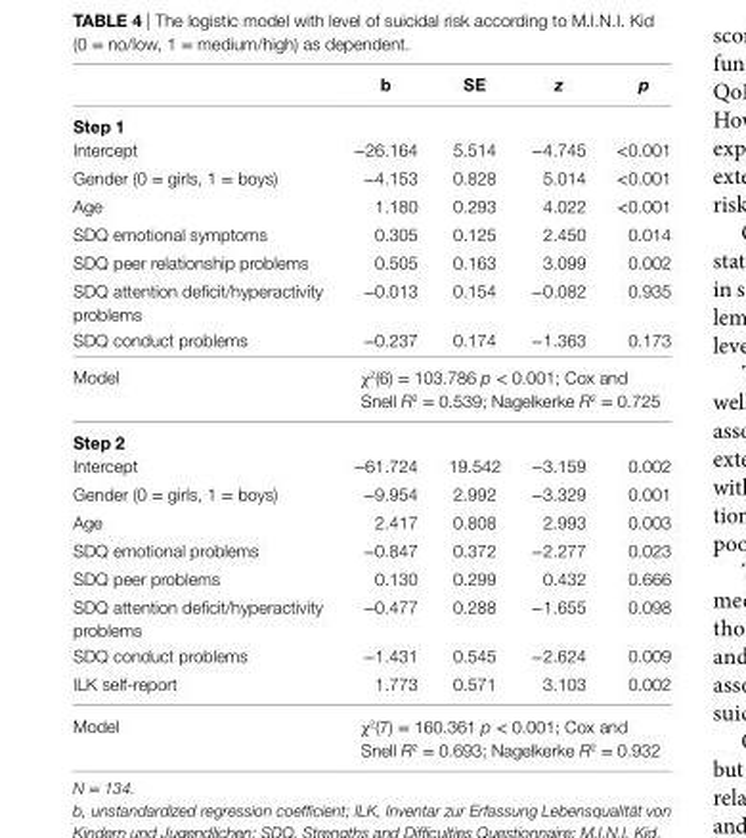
<table><thead><tr><td></td><td>b</td><td>se</td><td>z</td><td>p</td></tr></thead><tbody><tr><td colspan="5">step 1</td></tr><tr><td>Intercept</td><td>−26.164</td><td>5.514</td><td>−4.745</td><td>&lt;0.001</td></tr><tr><td>Gender (0 = girls, 1 = boys)</td><td>−4.153</td><td>0.828</td><td>5.014</td><td>&lt;0.001</td></tr><tr><td>Age</td><td>1.180</td><td>0.293</td><td>4.022</td><td>&lt;0.001</td></tr><tr><td>SDQ emotional symptoms</td><td>0.305</td><td>0.125</td><td>2.450</td><td>0.014</td></tr><tr><td>SDQ peer relationship problems</td><td>0.505</td><td>0.163</td><td>3.099</td><td>0.002</td></tr><tr><td>SDQ attention deficit/hyperactivity problems</td><td>−0.013</td><td>0.154</td><td>−0.082</td><td>0.935</td></tr><tr><td>SDQ conduct problems</td><td>−0.237</td><td>0.174</td><td>−1.363</td><td>0.173</td></tr><tr><td>Model</td><td colspan="4">χ<sup>2</sup>(6) = 103.786 p &lt; 0.001; Cox and Snell R<sup>2</sup> = 0.539; Nagelkerke R<sup>2</sup> = 0.725</td></tr><tr><td colspan="5">step 2</td></tr><tr><td>Intercept</td><td>−61.724</td><td>19.542</td><td>−3.159</td><td>0.002</td></tr><tr><td>Gender (0 = girls, 1 = boys)</td><td>−9.954</td><td>2.992</td><td>−3.329</td><td>0.001</td></tr><tr><td>Age</td><td>2.417</td><td>0.808</td><td>2.993</td><td>0.003</td></tr><tr><td>SDQ emotional problems</td><td>−0.847</td><td>0.372</td><td>−2.277</td><td>0.023</td></tr><tr><td>SDQ peer problems</td><td>0.130</td><td>0.299</td><td>0.432</td><td>0.666</td></tr><tr><td>SDQ attention deficit/hyperactivity problems</td><td>−0.477</td><td>0.288</td><td>−1.655</td><td>0.098</td></tr><tr><td>SDQ conduct problems</td><td>−1.431</td><td>0.545</td><td>−2.624</td><td>0.009</td></tr><tr><td>ILK self-report</td><td>1.773</td><td>0.571</td><td>3.103</td><td>0.002</td></tr><tr><td>Model</td><td colspan="4">χ<sup>2</sup>(7) = 160.361 p &lt; 0.001; Cox and Snell R<sup>2</sup> = 0.693; Nagelkerke R<sup>2</sup> = 0.932</td></tr></tbody></table>